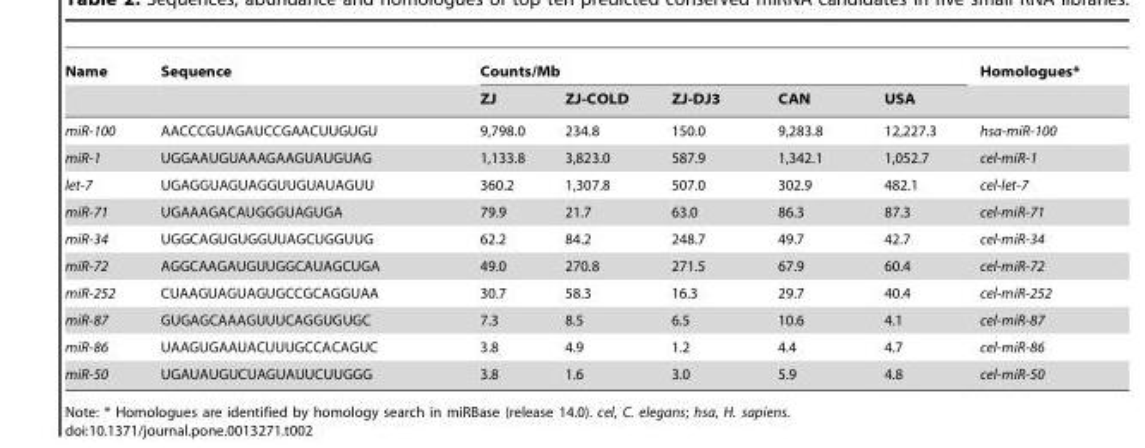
<table><thead><tr><td rowspan="2">Name</td><td rowspan="2">Sequence</td><td colspan="5">Counts/Mb</td><td rowspan="2">Homologues*</td></tr><tr><td>ZJ</td><td>ZJ-COLD</td><td>ZJ-DJ3</td><td>CAN</td><td>USA</td></tr></thead><tbody><tr><td>miR-100</td><td>AACCCGUAGAUCCGAACUUGUGU</td><td>9,798.0</td><td>234.8</td><td>150.0</td><td>9,283.8</td><td>12,227.3</td><td>hsa-miR-100</td></tr><tr><td>miR-1</td><td>UGGAAUGUAAAGAAGUAUGUAG</td><td>1,133.8</td><td>3,823.0</td><td>587.9</td><td>1,342.1</td><td>1,052.7</td><td>cel-miR-1</td></tr><tr><td>let-7</td><td>UGAGGUAGUAGGUUGUAUAGUU</td><td>360.2</td><td>1,307.8</td><td>507.0</td><td>302.9</td><td>482.1</td><td>cel-let-7</td></tr><tr><td>miR-71</td><td>UGAAAGACAUGGGUAGUGA</td><td>79.9</td><td>21.7</td><td>63.0</td><td>86.3</td><td>87.3</td><td>cel-miR-71</td></tr><tr><td>miR-34</td><td>UGGCAGUGUGGUUAGCUGGUUG</td><td>62.2</td><td>84.2</td><td>248.7</td><td>49.7</td><td>42.7</td><td>cel-miR-34</td></tr><tr><td>miR-72</td><td>AGGCAAGAUGUUGGCAUAGCUGA</td><td>49.0</td><td>270.8</td><td>271.5</td><td>67.9</td><td>60.4</td><td>cel-miR-72</td></tr><tr><td>miR-252</td><td>CUAAGUAGUAGUGCCGCAGGUAA</td><td>30.7</td><td>58.3</td><td>16.3</td><td>29.7</td><td>40.4</td><td>cel-miR-252</td></tr><tr><td>miR-87</td><td>GUGAGCAAAGUUUCAGGUGUGC</td><td>7.3</td><td>8.5</td><td>6.5</td><td>10.6</td><td>4.1</td><td>cel-miR-87</td></tr><tr><td>miR-86</td><td>UAAGUGAAUACUUUGCCACAGUC</td><td>3.8</td><td>4.9</td><td>1.2</td><td>4.4</td><td>4.7</td><td>cel-miR-86</td></tr><tr><td>miR-50</td><td>UGAUAUGUCUAGUAUUCUUGGG</td><td>3.8</td><td>1.6</td><td>3.0</td><td>5.9</td><td>4.8</td><td>cel-miR-50</td></tr></tbody></table>